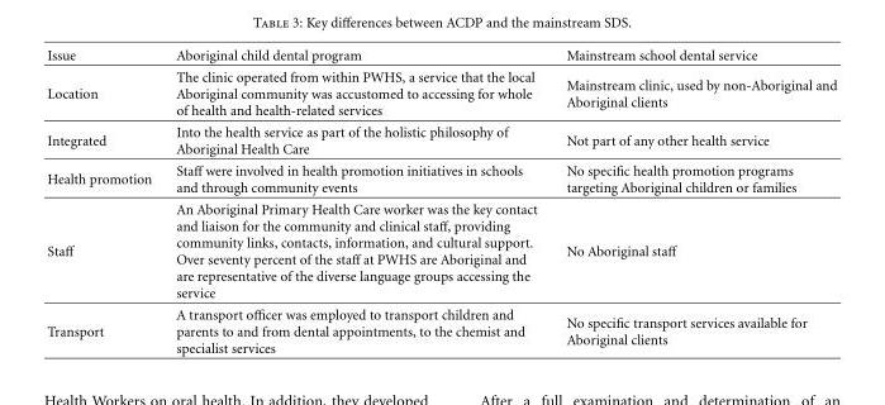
<table><thead><tr><td>Issue</td><td>Aboriginal child dental program</td><td>Mainstream school dental service</td></tr></thead><tbody><tr><td>Location</td><td>The clinic operated from within PWHS, a service that the local Aboriginal community was accustomed to accessing for whole of health and health-related services</td><td>Mainstream clinic, used by non-Aboriginal and Aboriginal clients</td></tr><tr><td>Integrated</td><td>Into the health service as part of the holistic philosophy of Aboriginal Health Care</td><td>Not part of any other health service</td></tr><tr><td>Health promotion</td><td>Staff were involved in health promotion initiatives in schools and through community events</td><td>No specific health promotion programs targeting Aboriginal children or families</td></tr><tr><td>Staff</td><td>An Aboriginal Primary Health Care worker was the key contact and liaison for the community and clinical staff, providing community links, contacts, information, and cultural support. Over seventy percent of the staff at PWHS are Aboriginal and are representative of the diverse language groups accessing the service</td><td>No Aboriginal staff</td></tr><tr><td>Transport</td><td>A transport officer was employed to transport children and parents to and from dental appointments, to the chemist and specialist services</td><td>No specific transport services available for Aboriginal clients</td></tr></tbody></table>